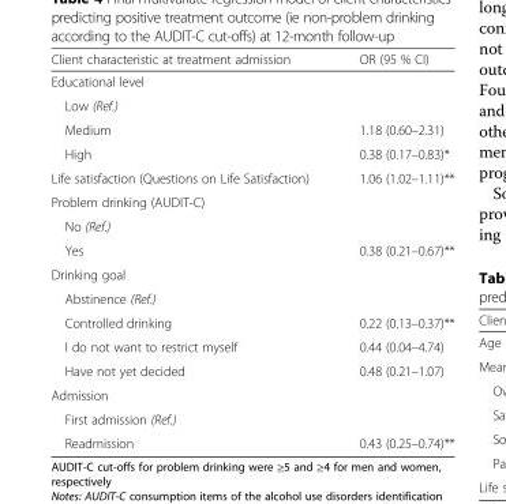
<table><thead><tr><td>Client characteristic at treatment admission</td><td>OR (95 % CI)</td></tr></thead><tbody><tr><td colspan="2">Educational level</td></tr><tr><td colspan="2">Low (Ref.)</td></tr><tr><td>Medium</td><td>1.18 (0.60–2.31)</td></tr><tr><td>High</td><td>0.38 (0.17–0.83)*</td></tr><tr><td>Life satisfaction (Questions on Life Satisfaction)</td><td>1.06 (1.02–1.11)**</td></tr><tr><td colspan="2">Problem drinking (AUDIT-C)</td></tr><tr><td colspan="2">No (Ref.)</td></tr><tr><td>Yes</td><td>0.38 (0.21–0.67)**</td></tr><tr><td colspan="2">Drinking goal</td></tr><tr><td colspan="2">Abstinence (Ref.)</td></tr><tr><td>Controlled drinking</td><td>0.22 (0.13–0.37)**</td></tr><tr><td>I do not want to restrict myself</td><td>0.44 (0.04–4.74)</td></tr><tr><td>Have not yet decided</td><td>0.48 (0.21–1.07)</td></tr><tr><td colspan="2">Admission</td></tr><tr><td colspan="2">First admission (Ref.)</td></tr><tr><td>Readmission</td><td>0.43 (0.25–0.74)**</td></tr></tbody></table>